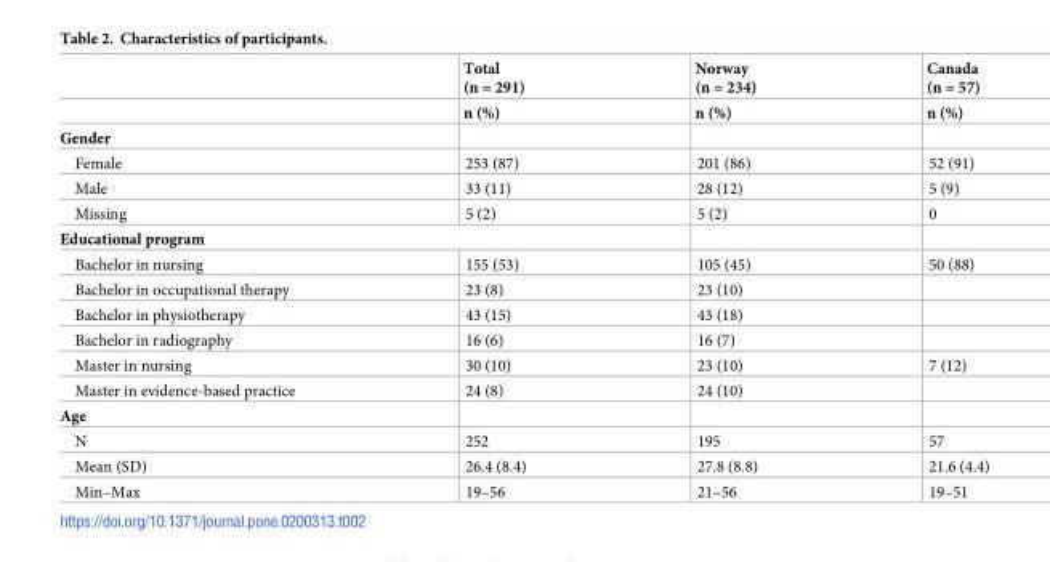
<table><thead><tr><td rowspan="2"></td><td rowspan="2">Total (n = 291) n (%)</td><td rowspan="2">Norway (n = 234) n (%)</td><td rowspan="2">Canada (n = 57) n (%)</td></tr><tr></tr></thead><tbody><tr><td colspan="4">Gender</td></tr><tr><td>Female</td><td>253 (87)</td><td>201 (86)</td><td>52 (91)</td></tr><tr><td>Male</td><td>33 (11)</td><td>28 (12)</td><td>5 (9)</td></tr><tr><td>Missing</td><td>5 (2)</td><td>5 (2)</td><td>0</td></tr><tr><td colspan="4">Educational program</td></tr><tr><td>Bachelor in nursing</td><td>155 (53)</td><td>105 (45)</td><td>50 (88)</td></tr><tr><td>Bachelor in occupational therapy</td><td>23 (8)</td><td>23 (10)</td><td></td></tr><tr><td>Bachelor in physiotherapy</td><td>43 (15)</td><td>43 (18)</td><td></td></tr><tr><td>Bachelor in radiography</td><td>16 (6)</td><td>16 (7)</td><td></td></tr><tr><td>Master in nursing</td><td>30 (10)</td><td>23 (10)</td><td>7 (12)</td></tr><tr><td>Master in evidence-based practice</td><td>24 (8)</td><td>24 (10)</td><td></td></tr><tr><td colspan="4">Age</td></tr><tr><td>N</td><td>252</td><td>195</td><td>57</td></tr><tr><td>Mean (SD)</td><td>26.4 (8.4)</td><td>27.8 (8.8)</td><td>21.6 (4.4)</td></tr><tr><td>Min–Max</td><td>19–56</td><td>21–56</td><td>19–51</td></tr></tbody></table>